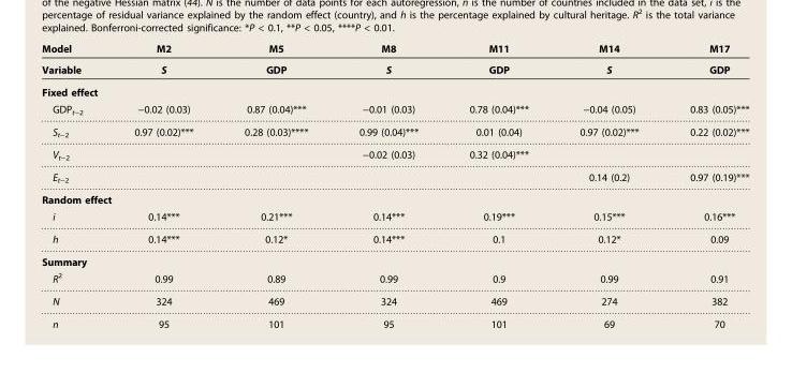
<table><thead><tr><td rowspan="2">Model Variable</td><td rowspan="2">M2 S</td><td rowspan="2">M5 GDP</td><td rowspan="2">M8 S</td><td rowspan="2">M11 GDP</td><td rowspan="2">M14 S</td><td rowspan="2">M17 GDP</td></tr><tr></tr></thead><tbody><tr><td colspan="7">Fixed effect</td></tr><tr><td>GDP<sub>t−2</sub></td><td>−0.02 (0.03)</td><td>0.87 (0.04)***</td><td>−0.01 (0.03)</td><td>0.78 (0.04)***</td><td>−0.04 (0.05)</td><td>0.83 (0.05)***</td></tr><tr><td>S<sub>t−2</sub></td><td>0.97 (0.02)***</td><td>0.28 (0.03)****</td><td>0.99 (0.04)***</td><td>0.01 (0.04)</td><td>0.97 (0.02)***</td><td>0.22 (0.02)***</td></tr><tr><td>V<sub>t−2</sub></td><td></td><td></td><td>−0.02 (0.03)</td><td>0.32 (0.04)***</td><td></td><td></td></tr><tr><td>E<sub>t−2</sub></td><td></td><td></td><td></td><td></td><td>0.14 (0.2)</td><td>0.97 (0.19)***</td></tr><tr><td colspan="7">Random effect</td></tr><tr><td>i</td><td>0.14***</td><td>0.21***</td><td>0.14***</td><td>0.19***</td><td>0.15***</td><td>0.16***</td></tr><tr><td>h</td><td>0.14***</td><td>0.12*</td><td>0.14***</td><td>0.1</td><td>0.12*</td><td>0.09</td></tr><tr><td colspan="7">Summary</td></tr><tr><td>R<sup>2</sup></td><td>0.99</td><td>0.89</td><td>0.99</td><td>0.9</td><td>0.99</td><td>0.91</td></tr><tr><td>N</td><td>324</td><td>469</td><td>324</td><td>469</td><td>274</td><td>382</td></tr><tr><td>n</td><td>95</td><td>101</td><td>95</td><td>101</td><td>69</td><td>70</td></tr></tbody></table>